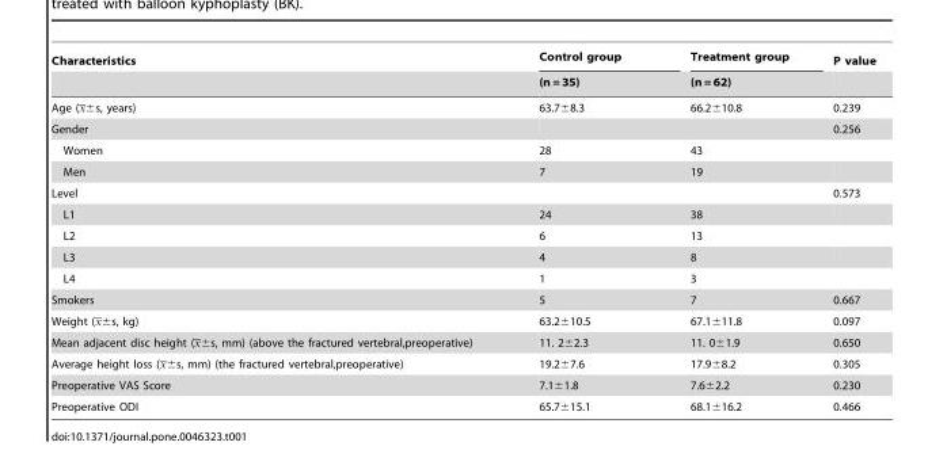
<table><thead><tr><td rowspan="2">Characteristics</td><td rowspan="2">Control group (n = 35)</td><td rowspan="2">Treatment group (n = 62)</td><td rowspan="2">P value</td></tr><tr></tr></thead><tbody><tr><td>Age (x6s, years)</td><td>63.7±8.3</td><td>66.2±10.8</td><td>0.239</td></tr><tr><td>Gender</td><td></td><td></td><td>0.256</td></tr><tr><td>Women</td><td>28</td><td>43</td><td></td></tr><tr><td>Men</td><td>7</td><td>19</td><td></td></tr><tr><td>Level</td><td></td><td></td><td>0.573</td></tr><tr><td>L1</td><td>24</td><td>38</td><td></td></tr><tr><td>L2</td><td>6</td><td>13</td><td></td></tr><tr><td>L3</td><td>4</td><td>8</td><td></td></tr><tr><td>L4</td><td>1</td><td>3</td><td></td></tr><tr><td>Smokers</td><td>5</td><td>7</td><td>0.667</td></tr><tr><td>Weight (x6s, kg)</td><td>63.2±10.5</td><td>67.1±11.8</td><td>0.097</td></tr><tr><td>Mean adjacent disc height (x6s, mm) (above the fractured vertebral,preoperative)</td><td>11. 2±2.3</td><td>11. 0±1.9</td><td>0.650</td></tr><tr><td>Average height loss (x6s, mm) (the fractured vertebral,preoperative)</td><td>19.2±7.6</td><td>17.9±8.2</td><td>0.305</td></tr><tr><td>Preoperative VAS Score</td><td>7.1±1.8</td><td>7.6±2.2</td><td>0.230</td></tr><tr><td>Preoperative ODI</td><td>65.7±15.1</td><td>68.1±16.2</td><td>0.466</td></tr></tbody></table>